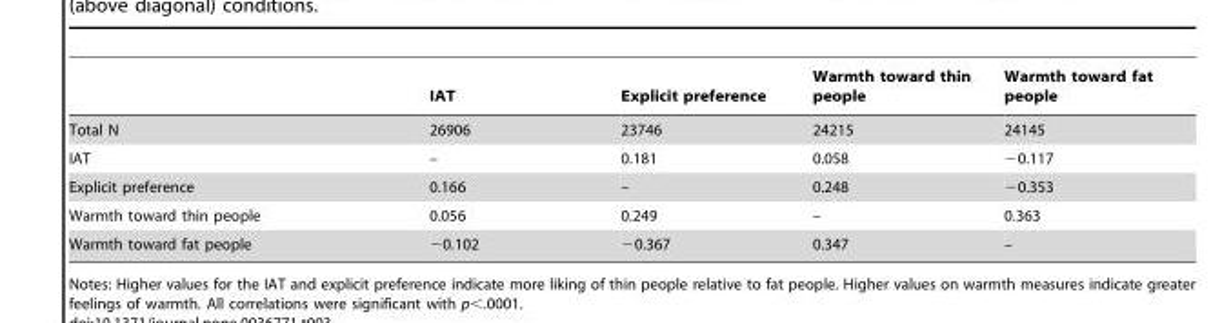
<table><thead><tr><td></td><td>IAT</td><td>Explicit preference</td><td>Warmth toward thin people</td><td>Warmth toward fat people</td></tr></thead><tbody><tr><td>Total N</td><td>26906</td><td>23746</td><td>24215</td><td>24145</td></tr><tr><td>IAT</td><td>–</td><td>0.181</td><td>0.058</td><td>−0.117</td></tr><tr><td>Explicit preference</td><td>0.166</td><td>–</td><td>0.248</td><td>−0.353</td></tr><tr><td>Warmth toward thin people</td><td>0.056</td><td>0.249</td><td>–</td><td>0.363</td></tr><tr><td>Warmth toward fat people</td><td>−0.102</td><td>−0.367</td><td>0.347</td><td>–</td></tr></tbody></table>